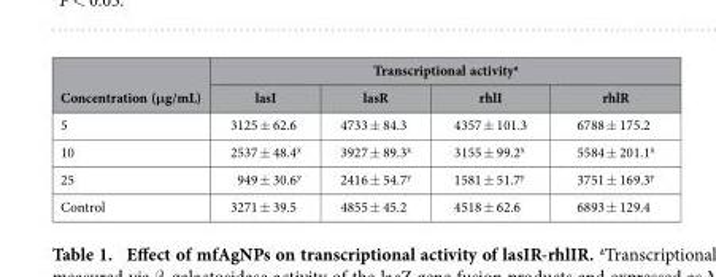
<table><thead><tr><td rowspan="2">Concentration (μg/mL)</td><td colspan="4">Transcriptional activity<sup>a</sup></td></tr><tr><td>lasI</td><td>lasR</td><td>rhlI</td><td>rhlR</td></tr></thead><tbody><tr><td>5</td><td>3125 ± 62.6</td><td>4733 ± 84.3</td><td>4357 ± 101.3</td><td>6788 ± 175.2</td></tr><tr><td>10</td><td>2537 ± 48.4<sup>x</sup></td><td>3927 ± 89.3<sup>x</sup></td><td>3155 ± 99.2<sup>x</sup></td><td>5584 ± 201.1<sup>x</sup></td></tr><tr><td>25</td><td>949 ± 30.6<sup>y</sup></td><td>2416 ± 54.7<sup>y</sup></td><td>1581 ± 51.7<sup>y</sup></td><td>3751 ± 169.3<sup>y</sup></td></tr><tr><td>Control</td><td>3271 ± 39.5</td><td>4855 ± 45.2</td><td>4518 ± 62.6</td><td>6893 ± 129.4</td></tr></tbody></table>